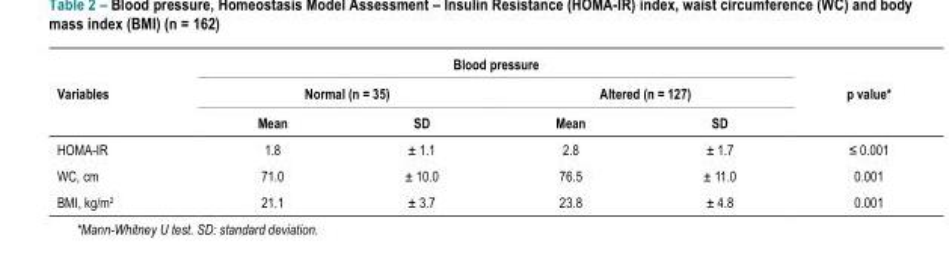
<table><thead><tr><td rowspan="3">Variables</td><td colspan="4">Blood pressure</td><td rowspan="3">p value*</td></tr><tr><td colspan="2">Normal (n = 35)</td><td colspan="2">Altered (n = 127)</td></tr><tr><td>Mean</td><td>SD</td><td>Mean</td><td>SD</td></tr></thead><tbody><tr><td>HOMA-IR</td><td>1.8</td><td>± 1.1</td><td>2.8</td><td>± 1.7</td><td>≤ 0.001</td></tr><tr><td>WC, cm</td><td>71.0</td><td>± 10.0</td><td>76.5</td><td>± 11.0</td><td>0.001</td></tr><tr><td>BMI, kg/m<sup>2</sup></td><td>21.1</td><td>± 3.7</td><td>23.8</td><td>± 4.8</td><td>0.001</td></tr></tbody></table>